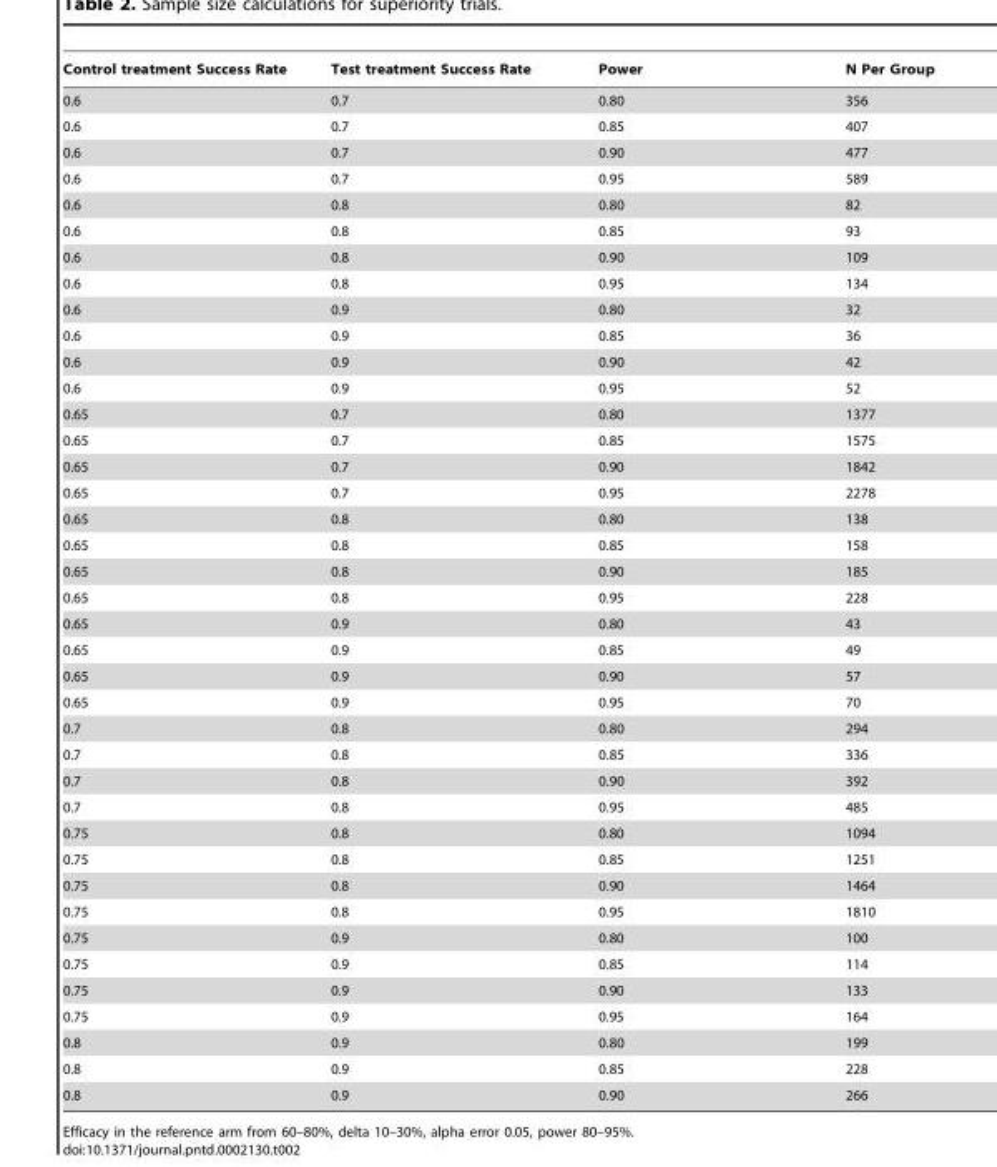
<table><thead><tr><td>Control treatment Success Rate</td><td>Test treatment Success Rate</td><td>Power</td><td>N Per Group</td></tr></thead><tbody><tr><td>0.6</td><td>0.7</td><td>0.80</td><td>356</td></tr><tr><td>0.6</td><td>0.7</td><td>0.85</td><td>407</td></tr><tr><td>0.6</td><td>0.7</td><td>0.90</td><td>477</td></tr><tr><td>0.6</td><td>0.7</td><td>0.95</td><td>589</td></tr><tr><td>0.6</td><td>0.8</td><td>0.80</td><td>82</td></tr><tr><td>0.6</td><td>0.8</td><td>0.85</td><td>93</td></tr><tr><td>0.6</td><td>0.8</td><td>0.90</td><td>109</td></tr><tr><td>0.6</td><td>0.8</td><td>0.95</td><td>134</td></tr><tr><td>0.6</td><td>0.9</td><td>0.80</td><td>32</td></tr><tr><td>0.6</td><td>0.9</td><td>0.85</td><td>36</td></tr><tr><td>0.6</td><td>0.9</td><td>0.90</td><td>42</td></tr><tr><td>0.6</td><td>0.9</td><td>0.95</td><td>52</td></tr><tr><td>0.65</td><td>0.7</td><td>0.80</td><td>1377</td></tr><tr><td>0.65</td><td>0.7</td><td>0.85</td><td>1575</td></tr><tr><td>0.65</td><td>0.7</td><td>0.90</td><td>1842</td></tr><tr><td>0.65</td><td>0.7</td><td>0.95</td><td>2278</td></tr><tr><td>0.65</td><td>0.8</td><td>0.80</td><td>138</td></tr><tr><td>0.65</td><td>0.8</td><td>0.85</td><td>158</td></tr><tr><td>0.65</td><td>0.8</td><td>0.90</td><td>185</td></tr><tr><td>0.65</td><td>0.8</td><td>0.95</td><td>228</td></tr><tr><td>0.65</td><td>0.9</td><td>0.80</td><td>43</td></tr><tr><td>0.65</td><td>0.9</td><td>0.85</td><td>49</td></tr><tr><td>0.65</td><td>0.9</td><td>0.90</td><td>57</td></tr><tr><td>0.65</td><td>0.9</td><td>0.95</td><td>70</td></tr><tr><td>0.7</td><td>0.8</td><td>0.80</td><td>294</td></tr><tr><td>0.7</td><td>0.8</td><td>0.85</td><td>336</td></tr><tr><td>0.7</td><td>0.8</td><td>0.90</td><td>392</td></tr><tr><td>0.7</td><td>0.8</td><td>0.95</td><td>485</td></tr><tr><td>0.75</td><td>0.8</td><td>0.80</td><td>1094</td></tr><tr><td>0.75</td><td>0.8</td><td>0.85</td><td>1251</td></tr><tr><td>0.75</td><td>0.8</td><td>0.90</td><td>1464</td></tr><tr><td>0.75</td><td>0.8</td><td>0.95</td><td>1810</td></tr><tr><td>0.75</td><td>0.9</td><td>0.80</td><td>100</td></tr><tr><td>0.75</td><td>0.9</td><td>0.85</td><td>114</td></tr><tr><td>0.75</td><td>0.9</td><td>0.90</td><td>133</td></tr><tr><td>0.75</td><td>0.9</td><td>0.95</td><td>164</td></tr><tr><td>0.8</td><td>0.9</td><td>0.80</td><td>199</td></tr><tr><td>0.8</td><td>0.9</td><td>0.85</td><td>228</td></tr><tr><td>0.8</td><td>0.9</td><td>0.90</td><td>266</td></tr></tbody></table>